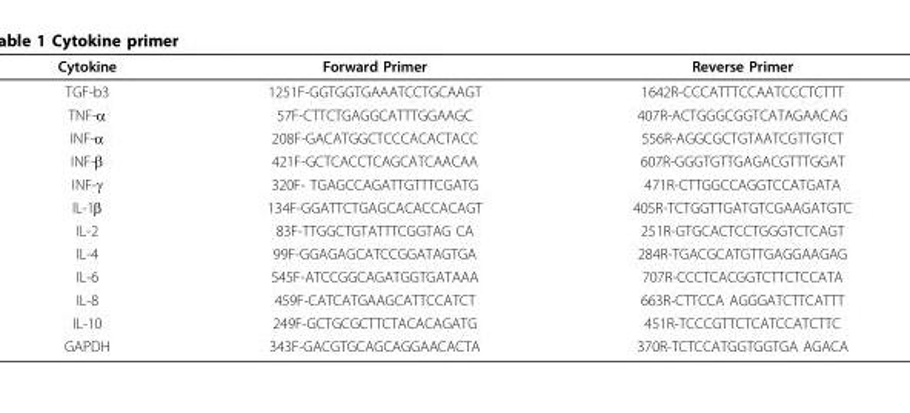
<table><thead><tr><td>Cytokine</td><td>Forward Primer</td><td>Reverse Primer</td></tr></thead><tbody><tr><td>TGF-b3</td><td>1251F-GGTGGTGAAATCCTGCAAGT</td><td>1642R-CCCATTTCCAATCCCTCTTT</td></tr><tr><td>TNF-α</td><td>57F-CTTCTGAGGCATTTGGAAGC</td><td>407R-ACTGGGCGGTCATAGAACAG</td></tr><tr><td>INF-α</td><td>208F-GACATGGCTCCCACACTACC</td><td>556R-AGGCGCTGTAATCGTTGTCT</td></tr><tr><td>INF-β</td><td>421F-GCTCACCTCAGCATCAACAA</td><td>607R-GGGTGTTGAGACGTTTGGAT</td></tr><tr><td>INF-γ</td><td>320F- TGAGCCAGATTGTTTCGATG</td><td>471R-CTTGGCCAGGTCCATGATA</td></tr><tr><td>IL-1β</td><td>134F-GGATTCTGAGCACACCACAGT</td><td>405R-TCTGGTTGATGTCGAAGATGTC</td></tr><tr><td>IL-2</td><td>83F-TTGGCTGTATTTCGGTAG CA</td><td>251R-GTGCACTCCTGGGTCTCAGT</td></tr><tr><td>IL-4</td><td>99F-GGAGAGCATCCGGATAGTGA</td><td>284R-TGACGCATGTTGAGGAAGAG</td></tr><tr><td>IL-6</td><td>545F-ATCCGGCAGATGGTGATAAA</td><td>707R-CCCTCACGGTCTTCTCCATA</td></tr><tr><td>IL-8</td><td>459F-CATCATGAAGCATTCCATCT</td><td>663R-CTTCCA AGGGATCTTCATTT</td></tr><tr><td>IL-10</td><td>249F-GCTGCGCTTCTACACAGATG</td><td>451R-TCCCGTTCTCATCCATCTTC</td></tr><tr><td>GAPDH</td><td>343F-GACGTGCAGCAGGAACACTA</td><td>370R-TCTCCATGGTGGTGA AGACA</td></tr></tbody></table>